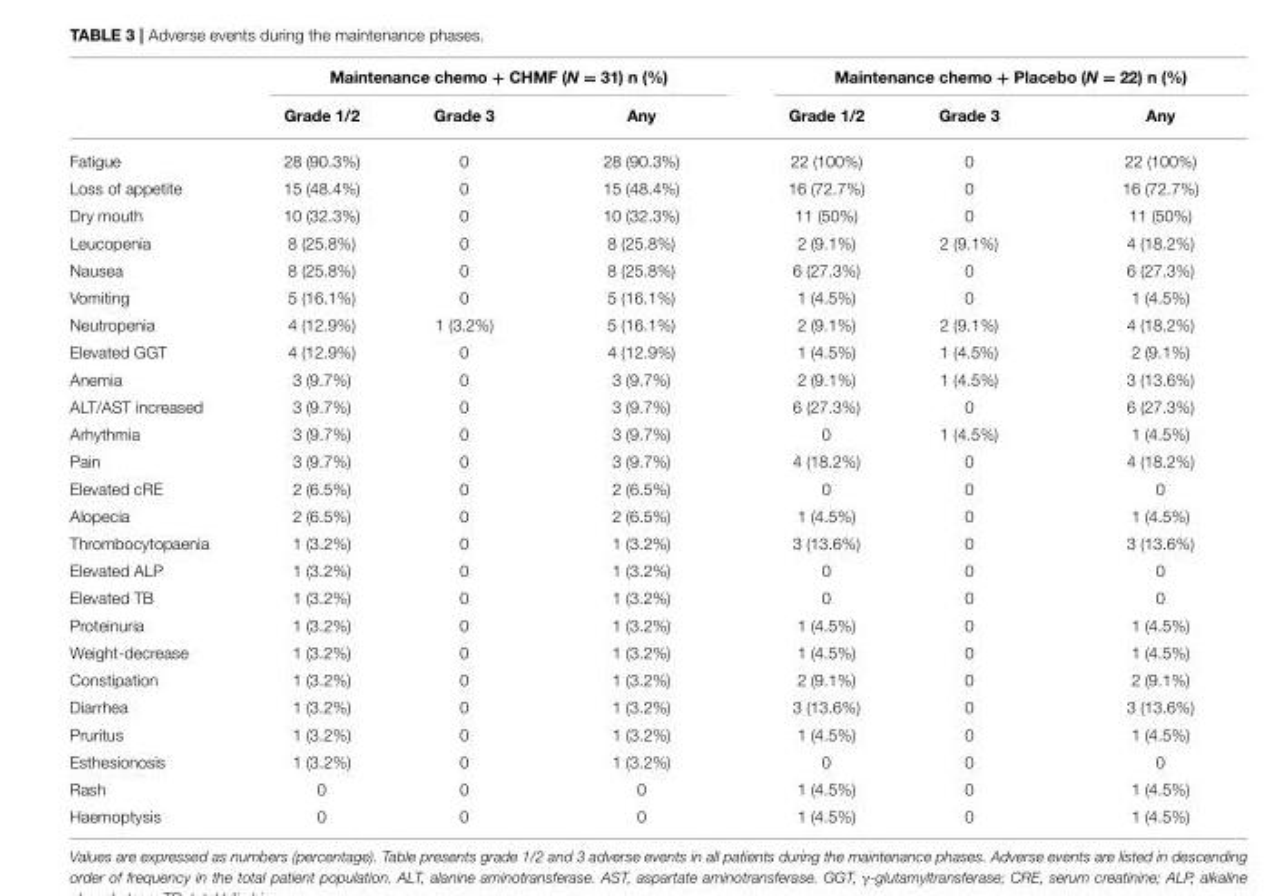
<table><thead><tr><td rowspan="2"></td><td colspan="3">Maintenance chemo + CHMF (N = 31) n (%)</td><td colspan="3">Maintenance chemo + Placebo (N = 22) n (%)</td></tr><tr><td>Grade 1/2</td><td>Grade 3</td><td>Any</td><td>Grade 1/2</td><td>Grade 3</td><td>Any</td></tr></thead><tbody><tr><td>Fatigue</td><td>28 (90.3%)</td><td>0</td><td>28 (90.3%)</td><td>22 (100%)</td><td>0</td><td>22 (100%)</td></tr><tr><td>Loss of appetite</td><td>15 (48.4%)</td><td>0</td><td>15 (48.4%)</td><td>16 (72.7%)</td><td>0</td><td>16 (72.7%)</td></tr><tr><td>Dry mouth</td><td>10 (32.3%)</td><td>0</td><td>10 (32.3%)</td><td>11 (50%)</td><td>0</td><td>11 (50%)</td></tr><tr><td>Leucopenia</td><td>8 (25.8%)</td><td>0</td><td>8 (25.8%)</td><td>2 (9.1%)</td><td>2 (9.1%)</td><td>4 (18.2%)</td></tr><tr><td>Nausea</td><td>8 (25.8%)</td><td>0</td><td>8 (25.8%)</td><td>6 (27.3%)</td><td>0</td><td>6 (27.3%)</td></tr><tr><td>Vomiting</td><td>5 (16.1%)</td><td>0</td><td>5 (16.1%)</td><td>1 (4.5%)</td><td>0</td><td>1 (4.5%)</td></tr><tr><td>Neutropenia</td><td>4 (12.9%)</td><td>1 (3.2%)</td><td>5 (16.1%)</td><td>2 (9.1%)</td><td>2 (9.1%)</td><td>4 (18.2%)</td></tr><tr><td>Elevated GGT</td><td>4 (12.9%)</td><td>0</td><td>4 (12.9%)</td><td>1 (4.5%)</td><td>1 (4.5%)</td><td>2 (9.1%)</td></tr><tr><td>Anemia</td><td>3 (9.7%)</td><td>0</td><td>3 (9.7%)</td><td>2 (9.1%)</td><td>1 (4.5%)</td><td>3 (13.6%)</td></tr><tr><td>ALT/AST increased</td><td>3 (9.7%)</td><td>0</td><td>3 (9.7%)</td><td>6 (27.3%)</td><td>0</td><td>6 (27.3%)</td></tr><tr><td>Arhythmia</td><td>3 (9.7%)</td><td>0</td><td>3 (9.7%)</td><td>0</td><td>1 (4.5%)</td><td>1 (4.5%)</td></tr><tr><td>Pain</td><td>3 (9.7%)</td><td>0</td><td>3 (9.7%)</td><td>4 (18.2%)</td><td>0</td><td>4 (18.2%)</td></tr><tr><td>Elevated cRE</td><td>2 (6.5%)</td><td>0</td><td>2 (6.5%)</td><td>0</td><td>0</td><td>0</td></tr><tr><td>Alopecia</td><td>2 (6.5%)</td><td>0</td><td>2 (6.5%)</td><td>1 (4.5%)</td><td>0</td><td>1 (4.5%)</td></tr><tr><td>Thrombocytopaenia</td><td>1 (3.2%)</td><td>0</td><td>1 (3.2%)</td><td>3 (13.6%)</td><td>0</td><td>3 (13.6%)</td></tr><tr><td>Elevated ALP</td><td>1 (3.2%)</td><td>0</td><td>1 (3.2%)</td><td>0</td><td>0</td><td>0</td></tr><tr><td>Elevated TB</td><td>1 (3.2%)</td><td>0</td><td>1 (3.2%)</td><td>0</td><td>0</td><td>0</td></tr><tr><td>Proteinuria</td><td>1 (3.2%)</td><td>0</td><td>1 (3.2%)</td><td>1 (4.5%)</td><td>0</td><td>1 (4.5%)</td></tr><tr><td>Weight-decrease</td><td>1 (3.2%)</td><td>0</td><td>1 (3.2%)</td><td>1 (4.5%)</td><td>0</td><td>1 (4.5%)</td></tr><tr><td>Constipation</td><td>1 (3.2%)</td><td>0</td><td>1 (3.2%)</td><td>2 (9.1%)</td><td>0</td><td>2 (9.1%)</td></tr><tr><td>Diarrhea</td><td>1 (3.2%)</td><td>0</td><td>1 (3.2%)</td><td>3 (13.6%)</td><td>0</td><td>3 (13.6%)</td></tr><tr><td>Pruritus</td><td>1 (3.2%)</td><td>0</td><td>1 (3.2%)</td><td>1 (4.5%)</td><td>0</td><td>1 (4.5%)</td></tr><tr><td>Esthesionosis</td><td>1 (3.2%)</td><td>0</td><td>1 (3.2%)</td><td>0</td><td>0</td><td>0</td></tr><tr><td>Rash</td><td>0</td><td>0</td><td>0</td><td>1 (4.5%)</td><td>0</td><td>1 (4.5%)</td></tr><tr><td>Haemoptysis</td><td>0</td><td>0</td><td>0</td><td>1 (4.5%)</td><td>0</td><td>1 (4.5%)</td></tr></tbody></table>